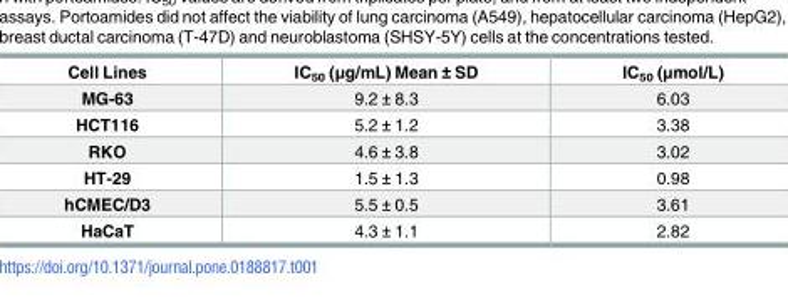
<table><thead><tr><td>Cell Lines</td><td>IC<sub>50</sub> (μg/mL) Mean ± SD</td><td>IC<sub>50</sub> (μmol/L)</td></tr></thead><tbody><tr><td>MG-63</td><td>9.2 ± 8.3</td><td>6.03</td></tr><tr><td>HCT116</td><td>5.2 ± 1.2</td><td>3.38</td></tr><tr><td>RKO</td><td>4.6 ± 3.8</td><td>3.02</td></tr><tr><td>HT-29</td><td>1.5 ± 1.3</td><td>0.98</td></tr><tr><td>hCMEC/D3</td><td>5.5 ± 0.5</td><td>3.61</td></tr><tr><td>HaCaT</td><td>4.3 ± 1.1</td><td>2.82</td></tr></tbody></table>